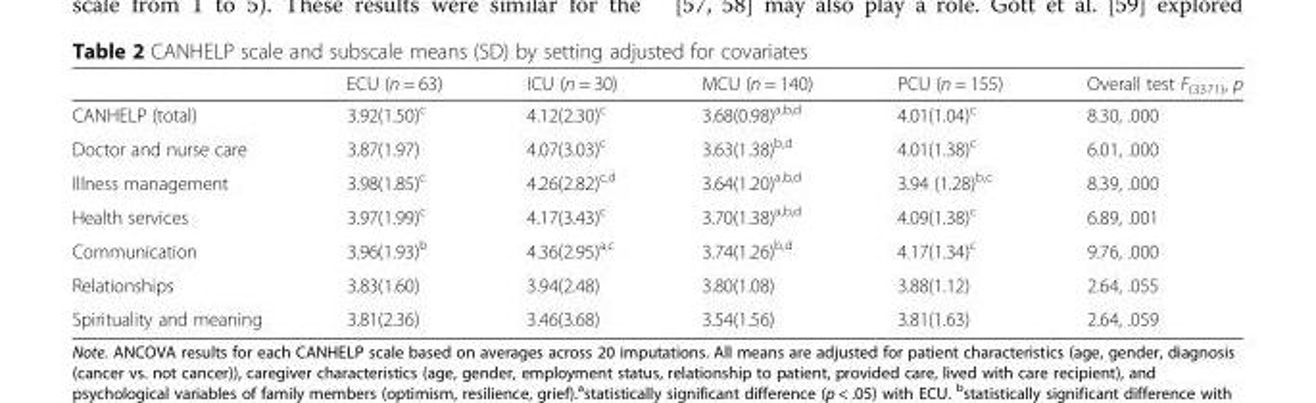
<table><thead><tr><td></td><td>ECU (n = 63)</td><td>ICU (n = 30)</td><td>MCU (n = 140)</td><td>PCU (n = 155)</td><td>Overall test F<sub>(3371)</sub>, p</td></tr></thead><tbody><tr><td>CANHELP (total)</td><td>3.92(1.50)<sup>c</sup></td><td>4.12(2.30)<sup>c</sup></td><td>3.68(0.98)<sup>a,b,d</sup></td><td>4.01(1.04)<sup>c</sup></td><td>8.30, .000</td></tr><tr><td>Doctor and nurse care</td><td>3.87(1.97)</td><td>4.07(3.03)<sup>c</sup></td><td>3.63(1.38)<sup>b,d</sup></td><td>4.01(1.38)<sup>c</sup></td><td>6.01, .000</td></tr><tr><td>Illness management</td><td>3.98(1.85)<sup>c</sup></td><td>4.26(2.82)<sup>c,d</sup></td><td>3.64(1.20)<sup>a,b,d</sup></td><td>3.94 (1.28)<sup>b,c</sup></td><td>8.39, .000</td></tr><tr><td>Health services</td><td>3.97(1.99)<sup>c</sup></td><td>4.17(3.43)<sup>c</sup></td><td>3.70(1.38)<sup>a,b,d</sup></td><td>4.09(1.38)<sup>c</sup></td><td>6.89, .001</td></tr><tr><td>Communication</td><td>3.96(1.93)<sup>b</sup></td><td>4.36(2.95)<sup>a,c</sup></td><td>3.74(1.26)<sup>b,d</sup></td><td>4.17(1.34)<sup>c</sup></td><td>9.76, .000</td></tr><tr><td>Relationships</td><td>3.83(1.60)</td><td>3.94(2.48)</td><td>3.80(1.08)</td><td>3.88(1.12)</td><td>2.64, .055</td></tr><tr><td>Spirituality and meaning</td><td>3.81(2.36)</td><td>3.46(3.68)</td><td>3.54(1.56)</td><td>3.81(1.63)</td><td>2.64, .059</td></tr></tbody></table>